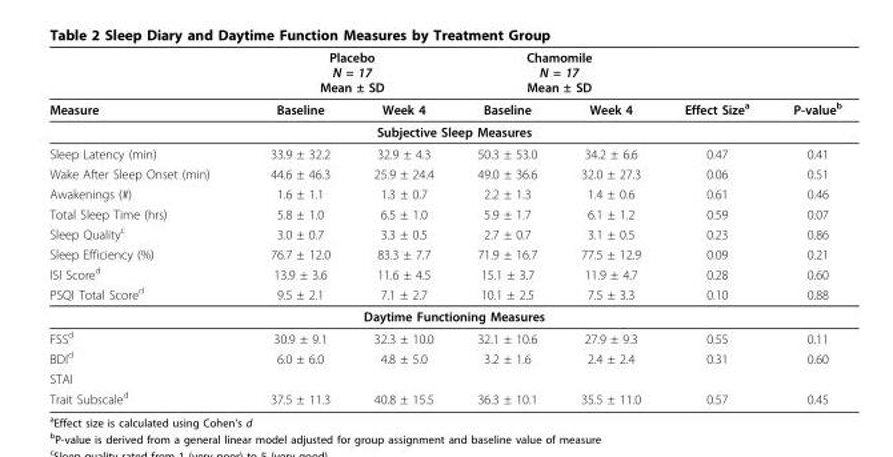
<table><thead><tr><td rowspan="2">Measure</td><td colspan="2">Placebo N = 17 Mean ± SD</td><td colspan="2">Chamomile N = 17 Mean ± SD</td><td rowspan="2">Effect Size<sup>a</sup></td><td rowspan="2">P-value<sup>b</sup></td></tr><tr><td>Baseline</td><td>Week 4</td><td>Baseline</td><td>Week 4</td></tr></thead><tbody><tr><td colspan="7">Subjective Sleep Measures</td></tr><tr><td>Sleep Latency (min)</td><td>33.9 ± 32.2</td><td>32.9 ± 4.3</td><td>50.3 ± 53.0</td><td>34.2 ± 6.6</td><td>0.47</td><td>0.41</td></tr><tr><td>Wake After Sleep Onset (min)</td><td>44.6 ± 46.3</td><td>25.9 ± 24.4</td><td>49.0 ± 36.6</td><td>32.0 ± 27.3</td><td>0.06</td><td>0.51</td></tr><tr><td>Awakenings (#)</td><td>1.6 ± 1.1</td><td>1.3 ± 0.7</td><td>2.2 ± 1.3</td><td>1.4 ± 0.6</td><td>0.61</td><td>0.46</td></tr><tr><td>Total Sleep Time (hrs)</td><td>5.8 ± 1.0</td><td>6.5 ± 1.0</td><td>5.9 ± 1.7</td><td>6.1 ± 1.2</td><td>0.59</td><td>0.07</td></tr><tr><td>Sleep Quality<sup>c</sup></td><td>3.0 ± 0.7</td><td>3.3 ± 0.5</td><td>2.7 ± 0.7</td><td>3.1 ± 0.5</td><td>0.23</td><td>0.86</td></tr><tr><td>Sleep Efficiency (%)</td><td>76.7 ± 12.0</td><td>83.3 ± 7.7</td><td>71.9 ± 16.7</td><td>77.5 ± 12.9</td><td>0.09</td><td>0.21</td></tr><tr><td>ISI Score<sup>d</sup></td><td>13.9 ± 3.6</td><td>11.6 ± 4.5</td><td>15.1 ± 3.7</td><td>11.9 ± 4.7</td><td>0.28</td><td>0.60</td></tr><tr><td>PSQI Total Score<sup>d</sup></td><td>9.5 ± 2.1</td><td>7.1 ± 2.7</td><td>10.1 ± 2.5</td><td>7.5 ± 3.3</td><td>0.10</td><td>0.88</td></tr><tr><td colspan="7">Daytime Functioning Measures</td></tr><tr><td>FSS<sup>d</sup></td><td>30.9 ± 9.1</td><td>32.3 ± 10.0</td><td>32.1 ± 10.6</td><td>27.9 ± 9.3</td><td>0.55</td><td>0.11</td></tr><tr><td>BDI<sup>d</sup></td><td>6.0 ± 6.0</td><td>4.8 ± 5.0</td><td>3.2 ± 1.6</td><td>2.4 ± 2.4</td><td>0.31</td><td>0.60</td></tr><tr><td colspan="7">STAI</td></tr><tr><td>Trait Subscale<sup>d</sup></td><td>37.5 ± 11.3</td><td>40.8 ± 15.5</td><td>36.3 ± 10.1</td><td>35.5 ± 11.0</td><td>0.57</td><td>0.45</td></tr></tbody></table>